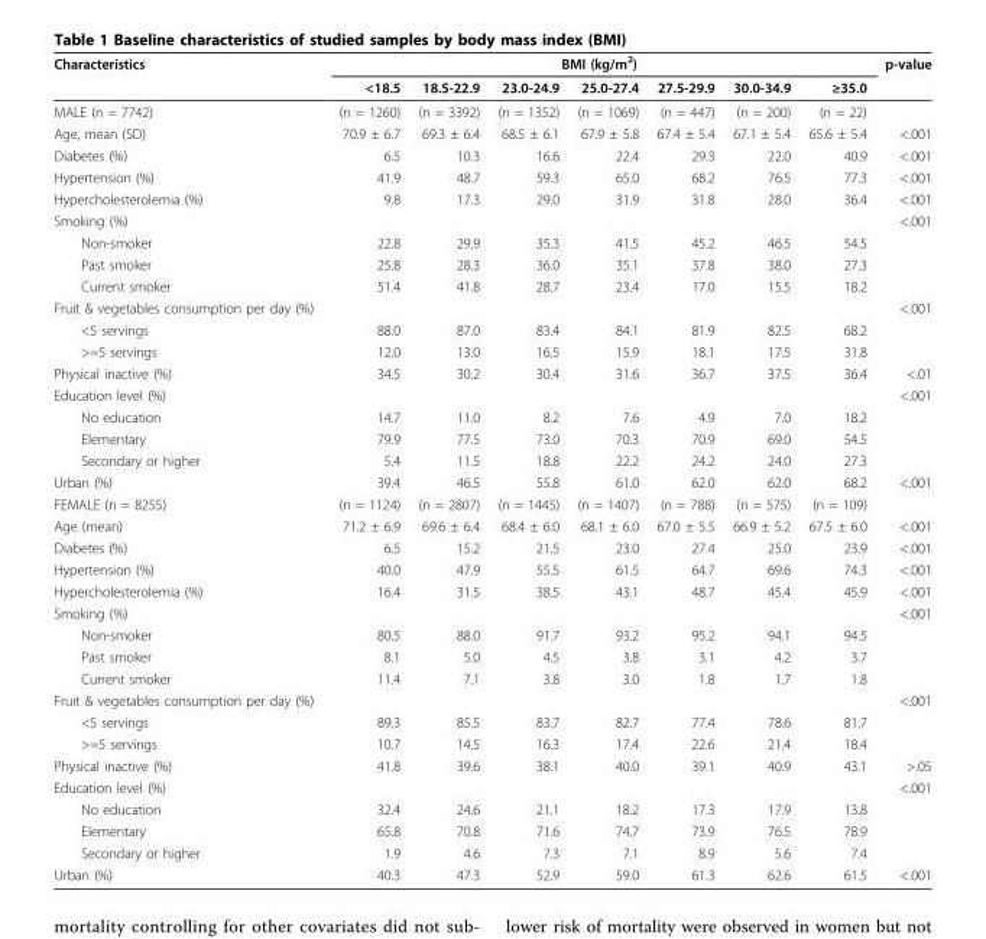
<table><thead><tr><td rowspan="2">Characteristics</td><td colspan="7">BMI (kg/m<sup>2</sup>)</td><td rowspan="2">p-value</td></tr><tr><td>&lt;18.5</td><td>18.5-22.9</td><td>23.0-24.9</td><td>25.0-27.4</td><td>27.5-29.9</td><td>30.0-34.9</td><td>≥35.0</td></tr></thead><tbody><tr><td>MALE (n = 7742)</td><td>(n = 1260)</td><td>(n = 3392)</td><td>(n = 1352)</td><td>(n = 1069)</td><td>(n = 447)</td><td>(n = 200)</td><td>(n = 22)</td><td></td></tr><tr><td>Age, mean (SD)</td><td>70.9 ± 6.7</td><td>69.3 ± 6.4</td><td>68.5 ± 6.1</td><td>67.9 ± 5.8</td><td>67.4 ± 5.4</td><td>67.1 ± 5.4</td><td>65.6 ± 5.4</td><td>&lt;.001</td></tr><tr><td>Diabetes (%)</td><td>6.5</td><td>10.3</td><td>16.6</td><td>22.4</td><td>29.3</td><td>22.0</td><td>40.9</td><td>&lt;.001</td></tr><tr><td>Hypertension (%)</td><td>41.9</td><td>48.7</td><td>59.3</td><td>65.0</td><td>68.2</td><td>76.5</td><td>77.3</td><td>&lt;.001</td></tr><tr><td>Hypercholesterolemia (%)</td><td>9.8</td><td>17.3</td><td>29.0</td><td>31.9</td><td>31.8</td><td>28.0</td><td>36.4</td><td>&lt;.001</td></tr><tr><td>Smoking (%)</td><td></td><td></td><td></td><td></td><td></td><td></td><td></td><td>&lt;.001</td></tr><tr><td>Non-smoker</td><td>22.8</td><td>29.9</td><td>35.3</td><td>41.5</td><td>45.2</td><td>46.5</td><td>54.5</td><td></td></tr><tr><td>Past smoker</td><td>25.8</td><td>28.3</td><td>36.0</td><td>35.1</td><td>37.8</td><td>38.0</td><td>27.3</td><td></td></tr><tr><td>Current smoker</td><td>51.4</td><td>41.8</td><td>28.7</td><td>23.4</td><td>17.0</td><td>15.5</td><td>18.2</td><td></td></tr><tr><td>Fruit &amp; vegetables consumption per day (%)</td><td></td><td></td><td></td><td></td><td></td><td></td><td></td><td>&lt;.001</td></tr><tr><td>&lt;5 servings</td><td>88.0</td><td>87.0</td><td>83.4</td><td>84.1</td><td>81.9</td><td>82.5</td><td>68.2</td><td></td></tr><tr><td>&gt;=5 servings</td><td>12.0</td><td>13.0</td><td>16.5</td><td>15.9</td><td>18.1</td><td>17.5</td><td>31.8</td><td></td></tr><tr><td>Physical inactive (%)</td><td>34.5</td><td>30.2</td><td>30.4</td><td>31.6</td><td>36.7</td><td>37.5</td><td>36.4</td><td>&lt;.01</td></tr><tr><td>Education level (%)</td><td></td><td></td><td></td><td></td><td></td><td></td><td></td><td>&lt;.001</td></tr><tr><td>No education</td><td>14.7</td><td>11.0</td><td>8.2</td><td>7.6</td><td>4.9</td><td>7.0</td><td>18.2</td><td></td></tr><tr><td>Elementary</td><td>79.9</td><td>77.5</td><td>73.0</td><td>70.3</td><td>70.9</td><td>69.0</td><td>54.5</td><td></td></tr><tr><td>Secondary or higher</td><td>5.4</td><td>11.5</td><td>18.8</td><td>22.2</td><td>24.2</td><td>24.0</td><td>27.3</td><td></td></tr><tr><td>Urban (%)</td><td>39.4</td><td>46.5</td><td>55.8</td><td>61.0</td><td>62.0</td><td>62.0</td><td>68.2</td><td>&lt;.001</td></tr><tr><td>FEMALE (n = 8255)</td><td>(n = 1124)</td><td>(n = 2807)</td><td>(n = 1445)</td><td>(n = 1407)</td><td>(n = 788)</td><td>(n = 575)</td><td>(n = 109)</td><td></td></tr><tr><td>Age (mean)</td><td>71.2 ± 6.9</td><td>69.6 ± 6.4</td><td>68.4 ± 6.0</td><td>68.1 ± 6.0</td><td>67.0 ± 5.5</td><td>66.9 ± 5.2</td><td>67.5 ± 6.0</td><td>&lt;.001</td></tr><tr><td>Diabetes (%)</td><td>6.5</td><td>15.2</td><td>21.5</td><td>23.0</td><td>27.4</td><td>25.0</td><td>23.9</td><td>&lt;.001</td></tr><tr><td>Hypertension (%)</td><td>40.0</td><td>47.9</td><td>55.5</td><td>61.5</td><td>64.7</td><td>69.6</td><td>74.3</td><td>&lt;.001</td></tr><tr><td>Hypercholesterolemia (%)</td><td>16.4</td><td>31.5</td><td>38.5</td><td>43.1</td><td>48.7</td><td>45.4</td><td>45.9</td><td>&lt;.001</td></tr><tr><td>Smoking (%)</td><td></td><td></td><td></td><td></td><td></td><td></td><td></td><td>&lt;.001</td></tr><tr><td>Non-smoker</td><td>80.5</td><td>88.0</td><td>91.7</td><td>93.2</td><td>95.2</td><td>94.1</td><td>94.5</td><td></td></tr><tr><td>Past smoker</td><td>8.1</td><td>5.0</td><td>4.5</td><td>3.8</td><td>3.1</td><td>4.2</td><td>3.7</td><td></td></tr><tr><td>Current smoker</td><td>11.4</td><td>7.1</td><td>3.8</td><td>3.0</td><td>1.8</td><td>1.7</td><td>1.8</td><td></td></tr><tr><td>Fruit &amp; vegetables consumption per day (%)</td><td></td><td></td><td></td><td></td><td></td><td></td><td></td><td>&lt;.001</td></tr><tr><td>&lt;5 servings</td><td>89.3</td><td>85.5</td><td>83.7</td><td>82.7</td><td>77.4</td><td>78.6</td><td>81.7</td><td></td></tr><tr><td>&gt;=5 servings</td><td>10.7</td><td>14.5</td><td>16.3</td><td>17.4</td><td>22.6</td><td>21.4</td><td>18.4</td><td></td></tr><tr><td>Physical inactive (%)</td><td>41.8</td><td>39.6</td><td>38.1</td><td>40.0</td><td>39.1</td><td>40.9</td><td>43.1</td><td>&gt;.05</td></tr><tr><td>Education level (%)</td><td></td><td></td><td></td><td></td><td></td><td></td><td></td><td>&lt;.001</td></tr><tr><td>No education</td><td>32.4</td><td>24.6</td><td>21.1</td><td>18.2</td><td>17.3</td><td>17.9</td><td>13.8</td><td></td></tr><tr><td>Elementary</td><td>65.8</td><td>70.8</td><td>71.6</td><td>74.7</td><td>73.9</td><td>76.5</td><td>78.9</td><td></td></tr><tr><td>Secondary or higher</td><td>1.9</td><td>4.6</td><td>7.3</td><td>7.1</td><td>8.9</td><td>5.6</td><td>7.4</td><td></td></tr><tr><td>Urban (%)</td><td>40.3</td><td>47.3</td><td>52.9</td><td>59.0</td><td>61.3</td><td>62.6</td><td>61.5</td><td>&lt;.001</td></tr></tbody></table>